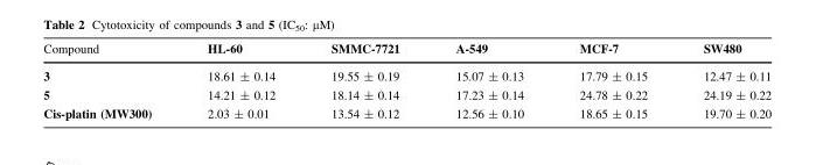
<table><thead><tr><td>Compound</td><td>HL-60</td><td>SMMC-7721</td><td>A-549</td><td>MCF-7</td><td>SW480</td></tr></thead><tbody><tr><td>3</td><td>18.61 ± 0.14</td><td>19.55 ± 0.19</td><td>15.07 ± 0.13</td><td>17.79 ± 0.15</td><td>12.47 ± 0.11</td></tr><tr><td>5</td><td>14.21 ± 0.12</td><td>18.14 ± 0.14</td><td>17.23 ± 0.14</td><td>24.78 ± 0.22</td><td>24.19 ± 0.22</td></tr><tr><td>Cis-platin (MW300)</td><td>2.03 ± 0.01</td><td>13.54 ± 0.12</td><td>12.56 ± 0.10</td><td>18.65 ± 0.15</td><td>19.70 ± 0.20</td></tr></tbody></table>